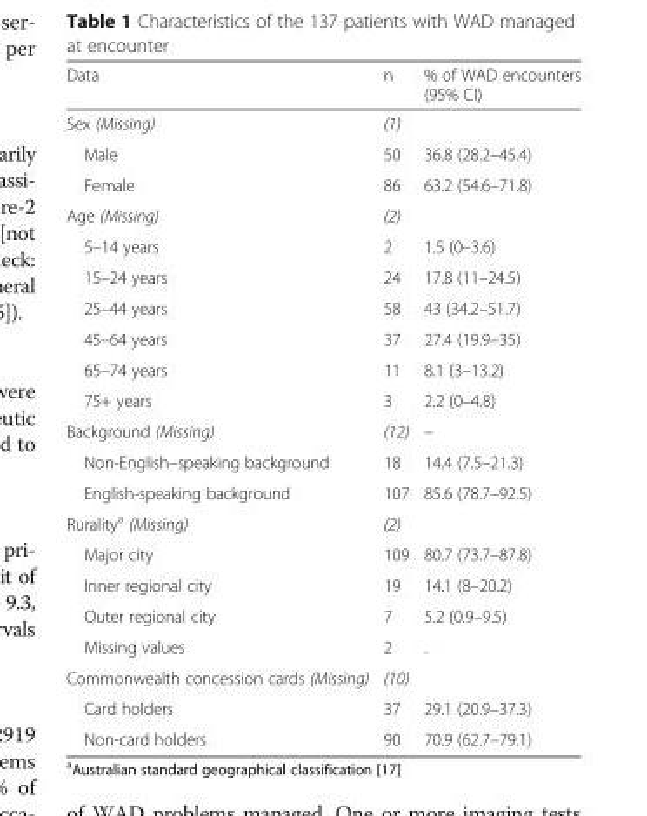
<table><thead><tr><td>Data</td><td>n</td><td>% of WAD encounters (95% CI)</td></tr></thead><tbody><tr><td>Sex (Missing)</td><td>(1)</td><td></td></tr><tr><td>Male</td><td>50</td><td>36.8 (28.2–45.4)</td></tr><tr><td>Female</td><td>86</td><td>63.2 (54.6–71.8)</td></tr><tr><td>Age (Missing)</td><td>(2)</td><td></td></tr><tr><td>5–14 years</td><td>2</td><td>1.5 (0–3.6)</td></tr><tr><td>15–24 years</td><td>24</td><td>17.8 (11–24.5)</td></tr><tr><td>25–44 years</td><td>58</td><td>43 (34.2–51.7)</td></tr><tr><td>45–64 years</td><td>37</td><td>27.4 (19.9–35)</td></tr><tr><td>65–74 years</td><td>11</td><td>8.1 (3–13.2)</td></tr><tr><td>75+ years</td><td>3</td><td>2.2 (0–4.8)</td></tr><tr><td>Background (Missing)</td><td>(12)</td><td>–</td></tr><tr><td>Non-English–speaking background</td><td>18</td><td>14.4 (7.5–21.3)</td></tr><tr><td>English-speaking background</td><td>107</td><td>85.6 (78.7–92.5)</td></tr><tr><td>Rurality<sup>a</sup> (Missing)</td><td>(2)</td><td></td></tr><tr><td>Major city</td><td>109</td><td>80.7 (73.7–87.8)</td></tr><tr><td>Inner regional city</td><td>19</td><td>14.1 (8–20.2)</td></tr><tr><td>Outer regional city</td><td>7</td><td>5.2 (0.9–9.5)</td></tr><tr><td>Missing values</td><td>2</td><td>.</td></tr><tr><td>Commonwealth concession cards (Missing)</td><td>(10)</td><td></td></tr><tr><td>Card holders</td><td>37</td><td>29.1 (20.9–37.3)</td></tr><tr><td>Non-card holders</td><td>90</td><td>70.9 (62.7–79.1)</td></tr></tbody></table>